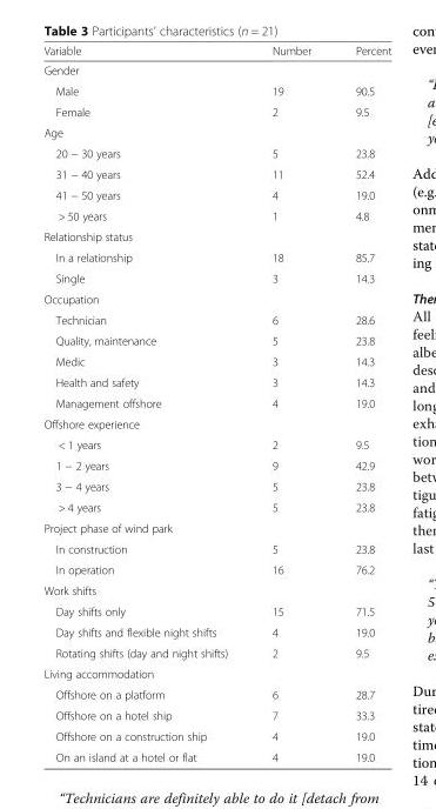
<table><thead><tr><td>Variable</td><td>Number</td><td>Percent</td></tr></thead><tbody><tr><td colspan="3">Gender</td></tr><tr><td>Male</td><td>19</td><td>90.5</td></tr><tr><td>Female</td><td>2</td><td>9.5</td></tr><tr><td colspan="3">Age</td></tr><tr><td>20 − 30 years</td><td>5</td><td>23.8</td></tr><tr><td>31 − 40 years</td><td>11</td><td>52.4</td></tr><tr><td>41 − 50 years</td><td>4</td><td>19.0</td></tr><tr><td>&gt; 50 years</td><td>1</td><td>4.8</td></tr><tr><td colspan="3">Relationship status</td></tr><tr><td>In a relationship</td><td>18</td><td>85.7</td></tr><tr><td>Single</td><td>3</td><td>14.3</td></tr><tr><td colspan="3">Occupation</td></tr><tr><td>Technician</td><td>6</td><td>28.6</td></tr><tr><td>Quality, maintenance</td><td>5</td><td>23.8</td></tr><tr><td>Medic</td><td>3</td><td>14.3</td></tr><tr><td>Health and safety</td><td>3</td><td>14.3</td></tr><tr><td>Management offshore</td><td>4</td><td>19.0</td></tr><tr><td colspan="3">Offshore experience</td></tr><tr><td>&lt; 1 years</td><td>2</td><td>9.5</td></tr><tr><td>1 − 2 years</td><td>9</td><td>42.9</td></tr><tr><td>3 − 4 years</td><td>5</td><td>23.8</td></tr><tr><td>&gt; 4 years</td><td>5</td><td>23.8</td></tr><tr><td colspan="3">Project phase of wind park</td></tr><tr><td>In construction</td><td>5</td><td>23.8</td></tr><tr><td>In operation</td><td>16</td><td>76.2</td></tr><tr><td colspan="3">Work shifts</td></tr><tr><td>Day shifts only</td><td>15</td><td>71.5</td></tr><tr><td>Day shifts and flexible night shifts</td><td>4</td><td>19.0</td></tr><tr><td>Rotating shifts (day and night shifts)</td><td>2</td><td>9.5</td></tr><tr><td colspan="3">Living accommodation</td></tr><tr><td>Offshore on a platform</td><td>6</td><td>28.7</td></tr><tr><td>Offshore on a hotel ship</td><td>7</td><td>33.3</td></tr><tr><td>Offshore on a construction ship</td><td>4</td><td>19.0</td></tr><tr><td>On an island at a hotel or flat</td><td>4</td><td>19.0</td></tr></tbody></table>